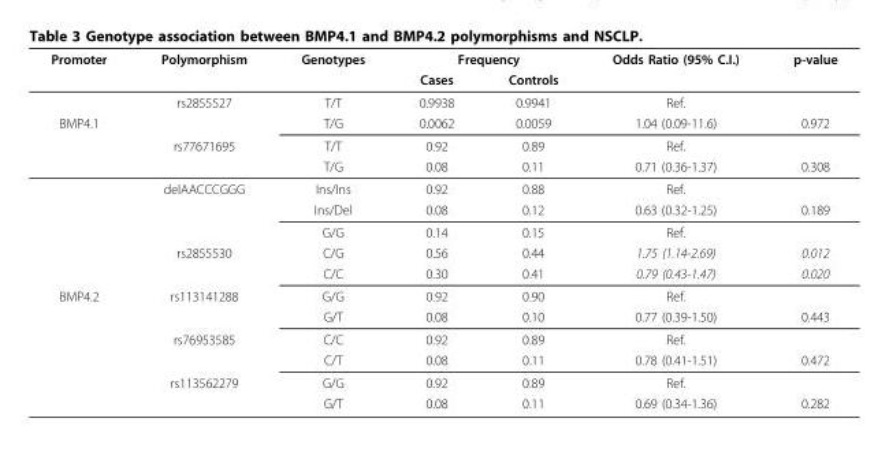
<table><thead><tr><td rowspan="2">Promoter</td><td rowspan="2">Polymorphism</td><td rowspan="2">Genotypes</td><td colspan="2">Frequency</td><td rowspan="2">Odds Ratio (95% C.I.)</td><td rowspan="2">p-value</td></tr><tr><td>Cases</td><td>Controls</td></tr></thead><tbody><tr><td></td><td>rs2855527</td><td>T/T</td><td>0.9938</td><td>0.9941</td><td>Ref.</td><td></td></tr><tr><td rowspan="8">BMP4.1</td><td></td><td>T/G</td><td>0.0062</td><td>0.0059</td><td>1.04 (0.09-11.6)</td><td>0.972</td></tr><tr><td>rs77671695</td><td>T/T</td><td>0.92</td><td>0.89</td><td>Ref.</td><td></td></tr><tr><td></td><td>T/G</td><td>0.08</td><td>0.11</td><td>0.71 (0.36-1.37)</td><td>0.308</td></tr><tr><td>delAACCCGGG</td><td>Ins/Ins</td><td>0.92</td><td>0.88</td><td>Ref.</td><td></td></tr><tr><td></td><td>Ins/Del</td><td>0.08</td><td>0.12</td><td>0.63 (0.32-1.25)</td><td>0.189</td></tr><tr><td></td><td>G/G</td><td>0.14</td><td>0.15</td><td>Ref.</td><td></td></tr><tr><td>rs2855530</td><td>C/G</td><td>0.56</td><td>0.44</td><td>1.75 (1.14-2.69)</td><td>0.012</td></tr><tr><td></td><td>C/C</td><td>0.30</td><td>0.41</td><td>0.79 (0.43-1.47)</td><td>0.020</td></tr><tr><td rowspan="6">BMP4.2</td><td>rs113141288</td><td>G/G</td><td>0.92</td><td>0.90</td><td>Ref.</td><td></td></tr><tr><td></td><td>G/T</td><td>0.08</td><td>0.10</td><td>0.77 (0.39-1.50)</td><td>0.443</td></tr><tr><td>rs76953585</td><td>C/C</td><td>0.92</td><td>0.89</td><td>Ref.</td><td></td></tr><tr><td></td><td>C/T</td><td>0.08</td><td>0.11</td><td>0.78 (0.41-1.51)</td><td>0.472</td></tr><tr><td>rs113562279</td><td>G/G</td><td>0.92</td><td>0.89</td><td>Ref.</td><td></td></tr><tr><td></td><td>G/T</td><td>0.08</td><td>0.11</td><td>0.69 (0.34-1.36)</td><td>0.282</td></tr></tbody></table>